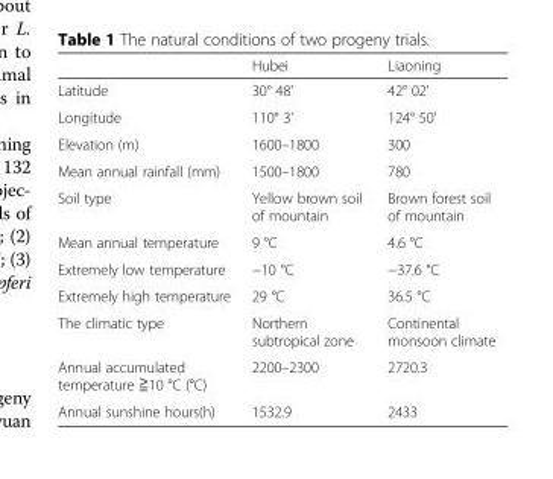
<table><thead><tr><td></td><td>Hubei</td><td>Liaoning</td></tr></thead><tbody><tr><td>Latitude</td><td>30° 48&#x27;</td><td>42° 02&#x27;</td></tr><tr><td>Longitude</td><td>110° 3&#x27;</td><td>124° 50&#x27;</td></tr><tr><td>Elevation (m)</td><td>1600–1800</td><td>300</td></tr><tr><td>Mean annual rainfall (mm)</td><td>1500–1800</td><td>780</td></tr><tr><td>Soil type</td><td>Yellow brown soil of mountain</td><td>Brown forest soil of mountain</td></tr><tr><td>Mean annual temperature</td><td>9 °C</td><td>4.6 °C</td></tr><tr><td>Extremely low temperature</td><td>−10 °C</td><td>−37.6 °C</td></tr><tr><td>Extremely high temperature</td><td>29 °C</td><td>36.5 °C</td></tr><tr><td>The climatic type</td><td>Northern subtropical zone</td><td>Continental monsoon climate</td></tr><tr><td>Annual accumulated temperature ≧10 °C (°C)</td><td>2200–2300</td><td>2720.3</td></tr><tr><td>Annual sunshine hours(h)</td><td>1532.9</td><td>2433</td></tr></tbody></table>